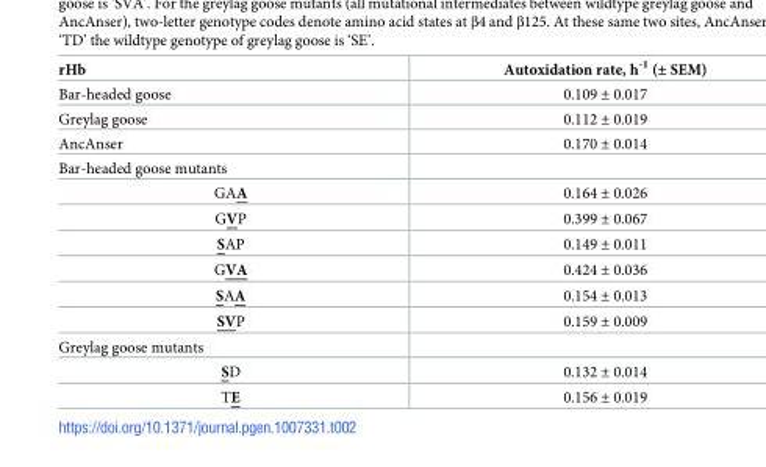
<table><thead><tr><td>rHb</td><td>Autoxidation rate, h<sup>-1</sup> (± SEM)</td></tr></thead><tbody><tr><td>Bar-headed goose</td><td>0.109 ± 0.017</td></tr><tr><td>Greylag goose</td><td>0.112 ± 0.019</td></tr><tr><td>AncAnser</td><td>0.170 ± 0.014</td></tr><tr><td colspan="2">Bar-headed goose mutants</td></tr><tr><td>GAA</td><td>0.164 ± 0.026</td></tr><tr><td>GVP</td><td>0.399 ± 0.067</td></tr><tr><td>SAP</td><td>0.149 ± 0.011</td></tr><tr><td>GVA</td><td>0.424 ± 0.036</td></tr><tr><td>SAA</td><td>0.154 ± 0.013</td></tr><tr><td>SVP</td><td>0.159 ± 0.009</td></tr><tr><td colspan="2">Greylag goose mutants</td></tr><tr><td>SD</td><td>0.132 ± 0.014</td></tr><tr><td>TE</td><td>0.156 ± 0.019</td></tr></tbody></table>